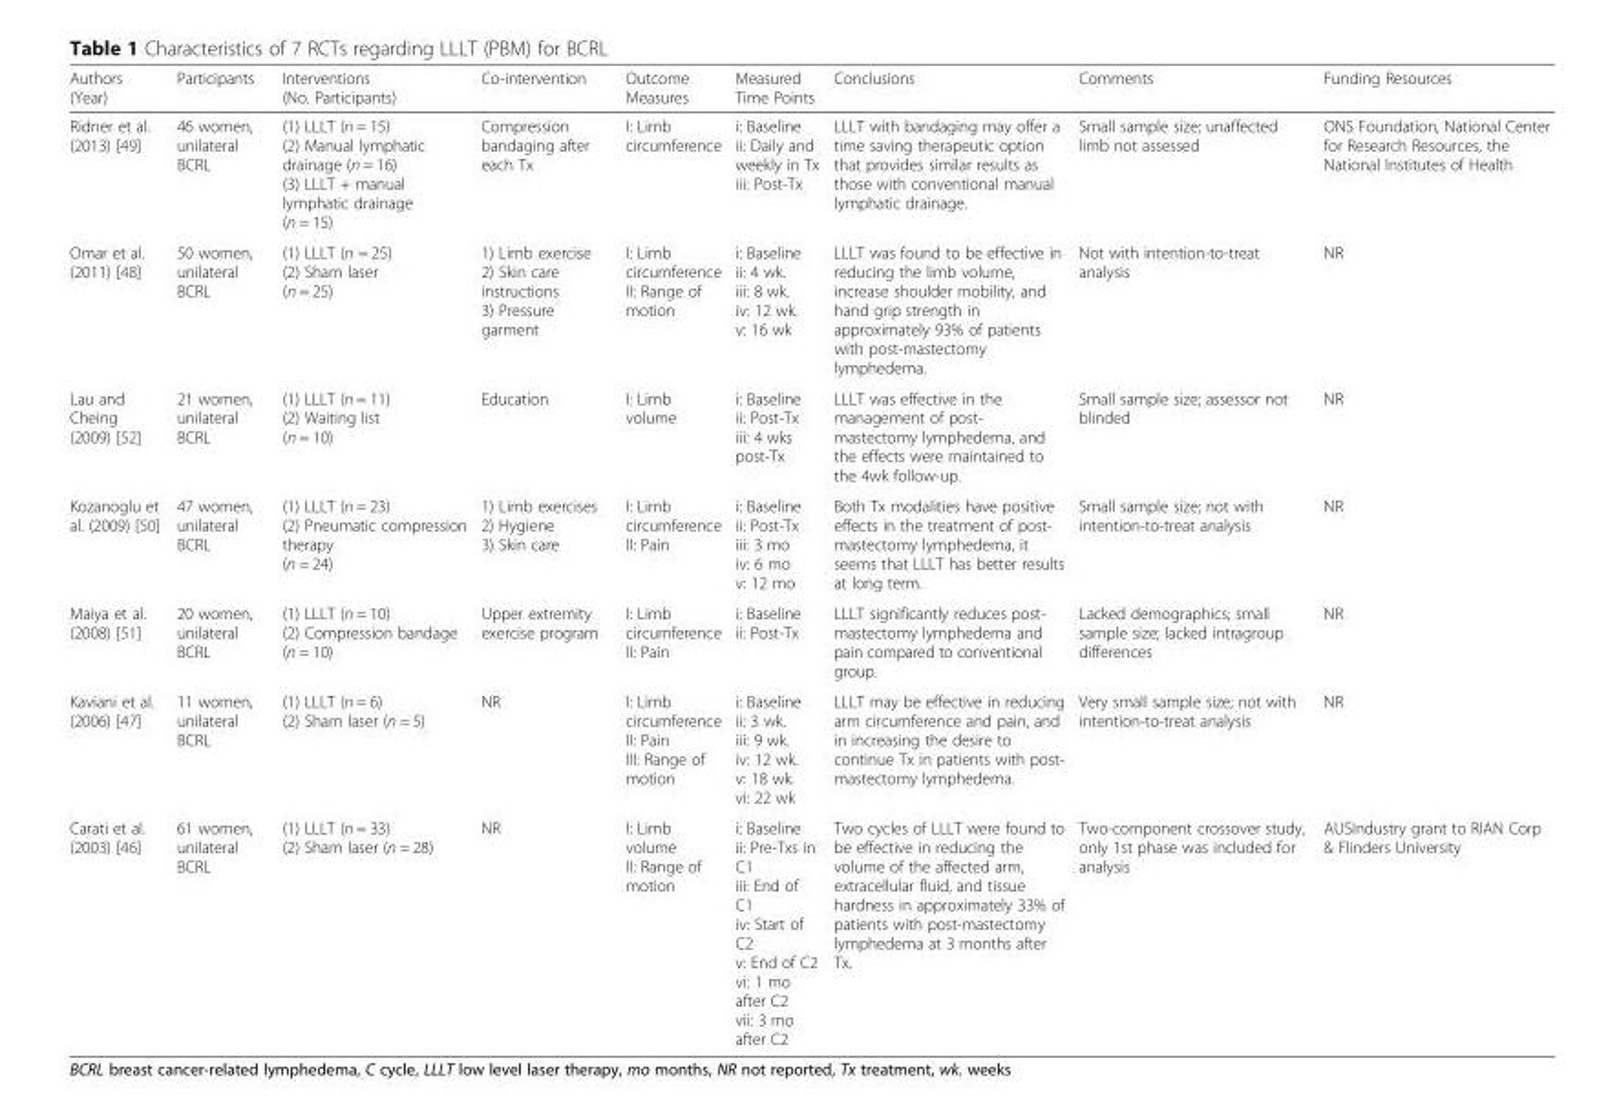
<table><thead><tr><td>Authors (Year)</td><td>Participants</td><td>Interventions (No. Participants)</td><td>Co-intervention</td><td>Outcome Measures</td><td>Measured Time Points</td><td>Conclusions</td><td>Comments</td><td>Funding Resources</td></tr></thead><tbody><tr><td>Ridner et al. (2013) [49]</td><td>46 women, unilateral BCRL</td><td>(1) LLLT (n = 15) (2) Manual lymphatic drainage (n = 16) (3) LLLT + manual lymphatic drainage (n = 15)</td><td>Compression bandaging after each Tx</td><td>I: Limb circumference</td><td>i: Baseline ii: Daily and weekly in Tx iii: Post-Tx</td><td>LLLT with bandaging may offer a time saving therapeutic option that provides similar results as those with conventional manual lymphatic drainage.</td><td>Small sample size; unaffected limb not assessed</td><td>ONS Foundation, National Center for Research Resources, the National Institutes of Health</td></tr><tr><td>Omar et al. (2011) [48]</td><td>50 women, unilateral BCRL</td><td>(1) LLLT (n = 25) (2) Sham laser (n = 25)</td><td>1) Limb exercise 2) Skin care instructions 3) Pressure garment</td><td>I: Limb circumference II: Range of motion</td><td>i: Baseline ii: 4 wk. iii: 8 wk. iv: 12 wk. v: 16 wk</td><td>LLLT was found to be effective in reducing the limb volume, increase shoulder mobility, and hand grip strength in approximately 93% of patients with post-mastectomy lymphedema.</td><td>Not with intention-to-treat analysis</td><td>NR</td></tr><tr><td>Lau and Cheing (2009) [52]</td><td>21 women, unilateral BCRL</td><td>(1) LLLT (n = 11) (2) Waiting list (n = 10)</td><td>Education</td><td>I: Limb volume</td><td>i: Baseline ii: Post-Tx iii: 4 wks post-Tx</td><td>LLLT was effective in the management of post- mastectomy lymphedema, and the effects were maintained to the 4wk follow-up.</td><td>Small sample size; assessor not blinded</td><td>NR</td></tr><tr><td>Kozanoglu et al. (2009) [50]</td><td>47 women, unilateral BCRL</td><td>(1) LLLT (n = 23) (2) Pneumatic compression therapy (n = 24)</td><td>1) Limb exercises 2) Hygiene 3) Skin care</td><td>I: Limb circumference II: Pain</td><td>i: Baseline ii: Post-Tx iii: 3 mo iv: 6 mo v: 12 mo</td><td>Both Tx modalities have positive effects in the treatment of post- mastectomy lymphedema, it seems that LLLT has better results at long term.</td><td>Small sample size; not with intention-to-treat analysis</td><td>NR</td></tr><tr><td>Maiya et al. (2008) [51]</td><td>20 women, unilateral BCRL</td><td>(1) LLLT (n = 10) (2) Compression bandage (n = 10)</td><td>Upper extremity exercise program</td><td>I: Limb circumference II: Pain</td><td>i: Baseline ii: Post-Tx</td><td>LLLT significantly reduces post- mastectomy lymphedema and pain compared to conventional group.</td><td>Lacked demographics; small sample size; lacked intragroup differences</td><td>NR</td></tr><tr><td>Kaviani et al. (2006) [47]</td><td>11 women, unilateral BCRL</td><td>(1) LLLT (n = 6) (2) Sham laser (n = 5)</td><td>NR</td><td>I: Limb circumference II: Pain III: Range of motion</td><td>i: Baseline ii: 3 wk. iii: 9 wk. iv: 12 wk. v: 18 wk. vi: 22 wk</td><td>LLLT may be effective in reducing arm circumference and pain, and in increasing the desire to continue Tx in patients with post- mastectomy lymphedema.</td><td>Very small sample size; not with intention-to-treat analysis</td><td>NR</td></tr><tr><td>Carati et al. (2003) [46]</td><td>61 women, unilateral BCRL</td><td>(1) LLLT (n = 33) (2) Sham laser (n = 28)</td><td>NR</td><td>I: Limb volume II: Range of motion</td><td>i: Baseline ii: Pre-Txs in C1 iii: End of C1 iv: Start of C2 v: End of C2 vi: 1 mo after C2 vii: 3 mo after C2</td><td>Two cycles of LLLT were found to be effective in reducing the volume of the affected arm, extracellular fluid, and tissue hardness in approximately 33% of patients with post-mastectomy lymphedema at 3 months after Tx.</td><td>Two-component crossover study, only 1st phase was included for analysis</td><td>AUSIndustry grant to RIAN Corp &amp; Flinders University</td></tr></tbody></table>